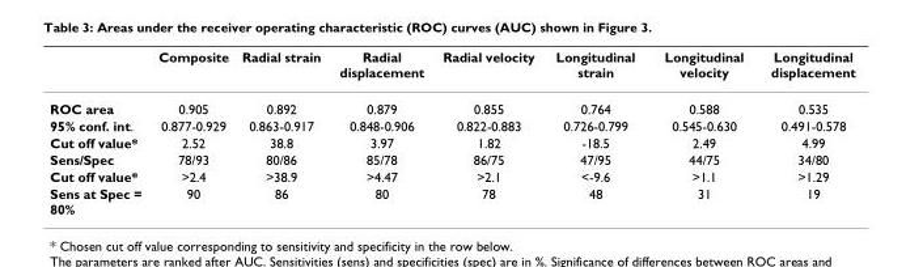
<table><thead><tr><td></td><td>Composite</td><td>Radial strain</td><td>Radial displacement</td><td>Radial velocity</td><td>Longitudinal strain</td><td>Longitudinal velocity</td><td>Longitudinal displacement</td></tr></thead><tbody><tr><td>ROC area</td><td>0.905</td><td>0.892</td><td>0.879</td><td>0.855</td><td>0.764</td><td>0.588</td><td>0.535</td></tr><tr><td>95% conf. int.</td><td>0.877-0.929</td><td>0.863-0.917</td><td>0.848-0.906</td><td>0.822-0.883</td><td>0.726-0.799</td><td>0.545-0.630</td><td>0.491-0.578</td></tr><tr><td>Cut off value*</td><td>2.52</td><td>38.8</td><td>3.97</td><td>1.82</td><td>-18.5</td><td>2.49</td><td>4.99</td></tr><tr><td>Sens/Spec</td><td>78/93</td><td>80/86</td><td>85/78</td><td>86/75</td><td>47/95</td><td>44/75</td><td>34/80</td></tr><tr><td>Cut off value*</td><td>&gt;2.4</td><td>&gt;38.9</td><td>&gt;4.47</td><td>&gt;2.1</td><td>&lt;-9.6</td><td>&gt;1.1</td><td>&gt;1.29</td></tr><tr><td>Sens at Spec = 80%</td><td>90</td><td>86</td><td>80</td><td>78</td><td>48</td><td>31</td><td>19</td></tr></tbody></table>